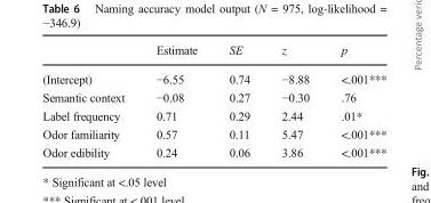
<table><thead><tr><td></td><td>Estimate</td><td>SE</td><td>z</td><td>p</td></tr></thead><tbody><tr><td>(Intercept)</td><td>−6.55</td><td>0.74</td><td>−8.88</td><td>&lt;.001***</td></tr><tr><td>Semantic context</td><td>−0.08</td><td>0.27</td><td>−0.30</td><td>.76</td></tr><tr><td>Label frequency</td><td>0.71</td><td>0.29</td><td>2.44</td><td>.01*</td></tr><tr><td>Odor familiarity</td><td>0.57</td><td>0.11</td><td>5.47</td><td>&lt;.001***</td></tr><tr><td>Odor edibility</td><td>0.24</td><td>0.06</td><td>3.86</td><td>&lt;.001***</td></tr></tbody></table>